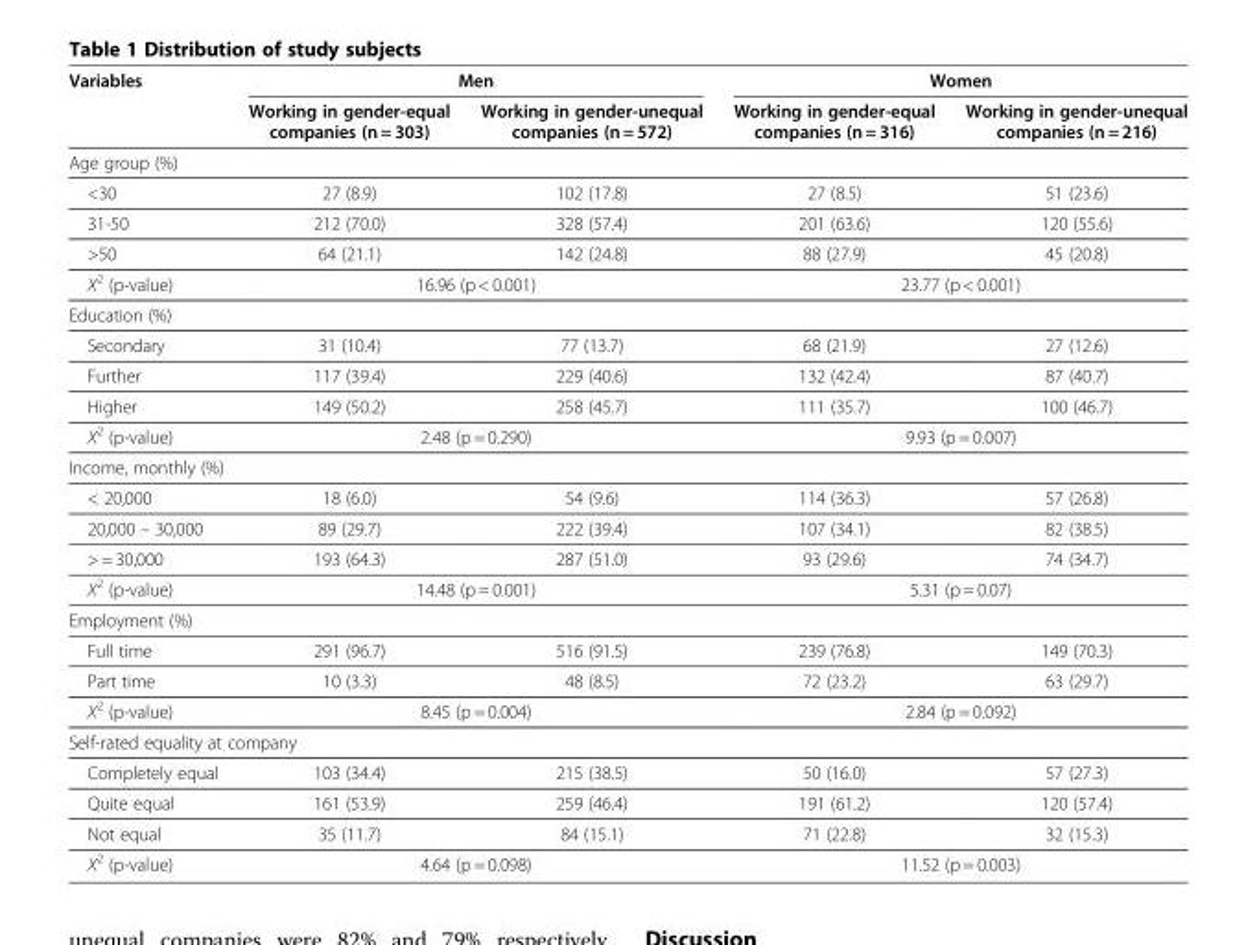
<table><thead><tr><td rowspan="2">Variables</td><td colspan="2">Men</td><td colspan="2">Women</td></tr><tr><td>Working in gender-equal companies (n = 303)</td><td>Working in gender-unequal companies (n = 572)</td><td>Working in gender-equal companies (n = 316)</td><td>Working in gender-unequal companies (n = 216)</td></tr></thead><tbody><tr><td colspan="5">Age group (%)</td></tr><tr><td>&lt;30</td><td>27 (8.9)</td><td>102 (17.8)</td><td>27 (8.5)</td><td>51 (23.6)</td></tr><tr><td>31-50</td><td>212 (70.0)</td><td>328 (57.4)</td><td>201 (63.6)</td><td>120 (55.6)</td></tr><tr><td>&gt;50</td><td>64 (21.1)</td><td>142 (24.8)</td><td>88 (27.9)</td><td>45 (20.8)</td></tr><tr><td>X<sup>2</sup> (p-value)</td><td colspan="2">16.96 (p &lt; 0.001)</td><td colspan="2">23.77 (p &lt; 0.001)</td></tr><tr><td colspan="5">Education (%)</td></tr><tr><td>Secondary</td><td>31 (10.4)</td><td>77 (13.7)</td><td>68 (21.9)</td><td>27 (12.6)</td></tr><tr><td>Further</td><td>117 (39.4)</td><td>229 (40.6)</td><td>132 (42.4)</td><td>87 (40.7)</td></tr><tr><td>Higher</td><td>149 (50.2)</td><td>258 (45.7)</td><td>111 (35.7)</td><td>100 (46.7)</td></tr><tr><td>X<sup>2</sup> (p-value)</td><td colspan="2">2.48 (p = 0.290)</td><td colspan="2">9.93 (p = 0.007)</td></tr><tr><td colspan="5">Income, monthly (%)</td></tr><tr><td>&lt; 20,000</td><td>18 (6.0)</td><td>54 (9.6)</td><td>114 (36.3)</td><td>57 (26.8)</td></tr><tr><td>20,000 – 30,000</td><td>89 (29.7)</td><td>222 (39.4)</td><td>107 (34.1)</td><td>82 (38.5)</td></tr><tr><td>&gt; = 30,000</td><td>193 (64.3)</td><td>287 (51.0)</td><td>93 (29.6)</td><td>74 (34.7)</td></tr><tr><td>X<sup>2</sup> (p-value)</td><td colspan="2">14.48 (p = 0.001)</td><td colspan="2">5.31 (p = 0.07)</td></tr><tr><td colspan="5">Employment (%)</td></tr><tr><td>Full time</td><td>291 (96.7)</td><td>516 (91.5)</td><td>239 (76.8)</td><td>149 (70.3)</td></tr><tr><td>Part time</td><td>10 (3.3)</td><td>48 (8.5)</td><td>72 (23.2)</td><td>63 (29.7)</td></tr><tr><td>X<sup>2</sup> (p-value)</td><td colspan="2">8.45 (p = 0.004)</td><td colspan="2">2.84 (p = 0.092)</td></tr><tr><td colspan="5">Self-rated equality at company</td></tr><tr><td>Completely equal</td><td>103 (34.4)</td><td>215 (38.5)</td><td>50 (16.0)</td><td>57 (27.3)</td></tr><tr><td>Quite equal</td><td>161 (53.9)</td><td>259 (46.4)</td><td>191 (61.2)</td><td>120 (57.4)</td></tr><tr><td>Not equal</td><td>35 (11.7)</td><td>84 (15.1)</td><td>71 (22.8)</td><td>32 (15.3)</td></tr><tr><td>X<sup>2</sup> (p-value)</td><td colspan="2">4.64 (p = 0.098)</td><td colspan="2">11.52 (p = 0.003)</td></tr></tbody></table>